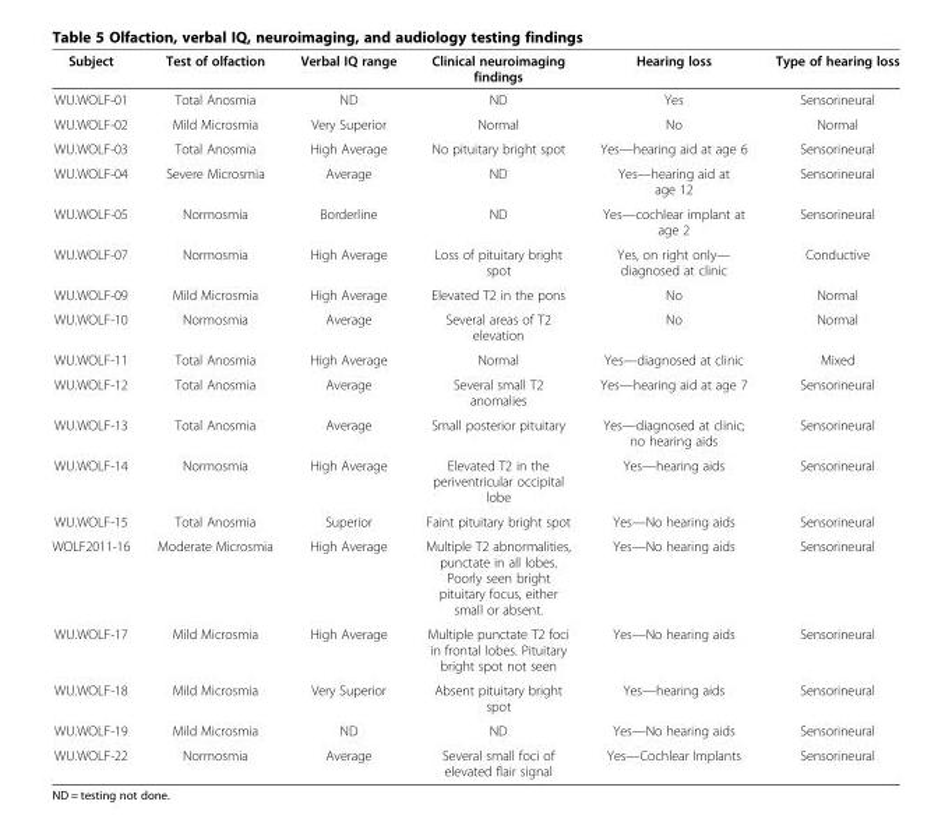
<table><thead><tr><td>Subject</td><td>Test of olfaction</td><td>Verbal IQ range</td><td>Clinical neuroimaging findings</td><td>Hearing loss</td><td>Type of hearing loss</td></tr></thead><tbody><tr><td>WU.WOLF-01</td><td>Total Anosmia</td><td>ND</td><td>ND</td><td>Yes</td><td>Sensorineural</td></tr><tr><td>WU.WOLF-02</td><td>Mild Microsmia</td><td>Very Superior</td><td>Normal</td><td>No</td><td>Normal</td></tr><tr><td>WU.WOLF-03</td><td>Total Anosmia</td><td>High Average</td><td>No pituitary bright spot</td><td>Yes—hearing aid at age 6</td><td>Sensorineural</td></tr><tr><td>WU.WOLF-04</td><td>Severe Microsmia</td><td>Average</td><td>ND</td><td>Yes—hearing aid at age 12</td><td>Sensorineural</td></tr><tr><td>WU.WOLF-05</td><td>Normosmia</td><td>Borderline</td><td>ND</td><td>Yes—cochlear implant at age 2</td><td>Sensorineural</td></tr><tr><td>WU.WOLF-07</td><td>Normosmia</td><td>High Average</td><td>Loss of pituitary bright spot</td><td>Yes, on right only— diagnosed at clinic</td><td>Conductive</td></tr><tr><td>WU.WOLF-09</td><td>Mild Microsmia</td><td>High Average</td><td>Elevated T2 in the pons</td><td>No</td><td>Normal</td></tr><tr><td>WU.WOLF-10</td><td>Normosmia</td><td>Average</td><td>Several areas of T2 elevation</td><td>No</td><td>Normal</td></tr><tr><td>WU.WOLF-11</td><td>Total Anosmia</td><td>High Average</td><td>Normal</td><td>Yes—diagnosed at clinic</td><td>Mixed</td></tr><tr><td>WU.WOLF-12</td><td>Total Anosmia</td><td>Average</td><td>Several small T2 anomalies</td><td>Yes—hearing aid at age 7</td><td>Sensorineural</td></tr><tr><td>WU.WOLF-13</td><td>Total Anosmia</td><td>Average</td><td>Small posterior pituitary</td><td>Yes—diagnosed at clinic; no hearing aids</td><td>Sensorineural</td></tr><tr><td>WU.WOLF-14</td><td>Normosmia</td><td>High Average</td><td>Elevated T2 in the periventricular occipital lobe</td><td>Yes—hearing aids</td><td>Sensorineural</td></tr><tr><td>WU.WOLF-15</td><td>Total Anosmia</td><td>Superior</td><td>Faint pituitary bright spot</td><td>Yes—No hearing aids</td><td>Sensorineural</td></tr><tr><td>WOLF2011-16</td><td>Moderate Microsmia</td><td>High Average</td><td>Multiple T2 abnormalities, punctate in all lobes. Poorly seen bright pituitary focus, either small or absent.</td><td>Yes—No hearing aids</td><td>Sensorineural</td></tr><tr><td>WU.WOLF-17</td><td>Mild Microsmia</td><td>High Average</td><td>Multiple punctate T2 foci in frontal lobes. Pituitary bright spot not seen</td><td>Yes—No hearing aids</td><td>Sensorineural</td></tr><tr><td>WU.WOLF-18</td><td>Mild Microsmia</td><td>Very Superior</td><td>Absent pituitary bright spot</td><td>Yes—hearing aids</td><td>Sensorineural</td></tr><tr><td>WU.WOLF-19</td><td>Mild Microsmia</td><td>ND</td><td>ND</td><td>Yes—No hearing aids</td><td>Sensorineural</td></tr><tr><td>WU.WOLF-22</td><td>Normosmia</td><td>Average</td><td>Several small foci of elevated flair signal</td><td>Yes—Cochlear Implants</td><td>Sensorineural</td></tr></tbody></table>